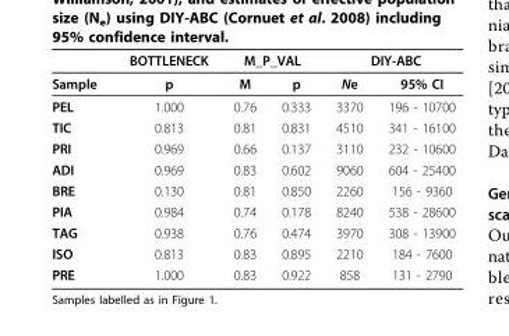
<table><thead><tr><td rowspan="2">Sample</td><td rowspan="2">BOTTLENECK p</td><td colspan="2">M_P_VAL</td><td colspan="2">DIY-ABC</td></tr><tr><td>M</td><td>p</td><td>Ne</td><td>95% CI</td></tr></thead><tbody><tr><td>PEL</td><td>1.000</td><td>0.76</td><td>0.333</td><td>3370</td><td>196 - 10700</td></tr><tr><td>TIC</td><td>0.813</td><td>0.81</td><td>0.831</td><td>4510</td><td>341 - 16100</td></tr><tr><td>PRI</td><td>0.969</td><td>0.66</td><td>0.137</td><td>3110</td><td>232 - 10600</td></tr><tr><td>ADI</td><td>0.969</td><td>0.83</td><td>0.602</td><td>9060</td><td>604 - 25400</td></tr><tr><td>BRE</td><td>0.130</td><td>0.81</td><td>0.850</td><td>2260</td><td>156 - 9360</td></tr><tr><td>PIA</td><td>0.984</td><td>0.74</td><td>0.178</td><td>8240</td><td>538 - 28600</td></tr><tr><td>TAG</td><td>0.938</td><td>0.76</td><td>0.474</td><td>3970</td><td>308 - 13900</td></tr><tr><td>ISO</td><td>0.813</td><td>0.83</td><td>0.895</td><td>2210</td><td>184 - 7600</td></tr><tr><td>PRE</td><td>1.000</td><td>0.83</td><td>0.922</td><td>858</td><td>131 - 2790</td></tr></tbody></table>